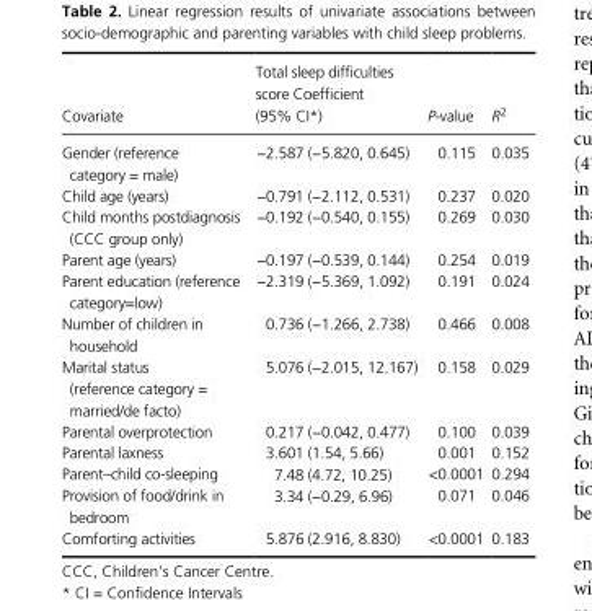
<table><thead><tr><td>Covariate</td><td>Total sleep difficulties score Coefficient (95% CI*)</td><td>P- value</td><td>R<sup>2</sup></td></tr></thead><tbody><tr><td>Gender (reference category = male)</td><td>−2.587 (−5.820, 0.645)</td><td>0.115</td><td>0.035</td></tr><tr><td>Child age (years)</td><td>−0.791 (−2.112, 0.531)</td><td>0.237</td><td>0.020</td></tr><tr><td>Child months postdiagnosis (CCC group only)</td><td>−0.192 (−0.540, 0.155)</td><td>0.269</td><td>0.030</td></tr><tr><td>Parent age (years)</td><td>−0.197 (−0.539, 0.144)</td><td>0.254</td><td>0.019</td></tr><tr><td>Parent education (reference category=low)</td><td>−2.319 (−5.369, 1.092)</td><td>0.191</td><td>0.024</td></tr><tr><td>Number of children in household</td><td>0.736 (−1.266, 2.738)</td><td>0.466</td><td>0.008</td></tr><tr><td>Marital status (reference category = married/de facto)</td><td>5.076 (−2.015, 12.167)</td><td>0.158</td><td>0.029</td></tr><tr><td>Parental overprotection</td><td>0.217 (−0.042, 0.477)</td><td>0.100</td><td>0.039</td></tr><tr><td>Parental laxness</td><td>3.601 (1.54, 5.66)</td><td>0.001</td><td>0.152</td></tr><tr><td>Parent–child co- sleeping</td><td>7.48 (4.72, 10.25)</td><td>&lt;0.0001</td><td>0.294</td></tr><tr><td>Provision of food/drink in bedroom</td><td>3.34 (−0.29, 6.96)</td><td>0.071</td><td>0.046</td></tr><tr><td>Comforting activities</td><td>5.876 (2.916, 8.830)</td><td>&lt;0.0001</td><td>0.183</td></tr></tbody></table>